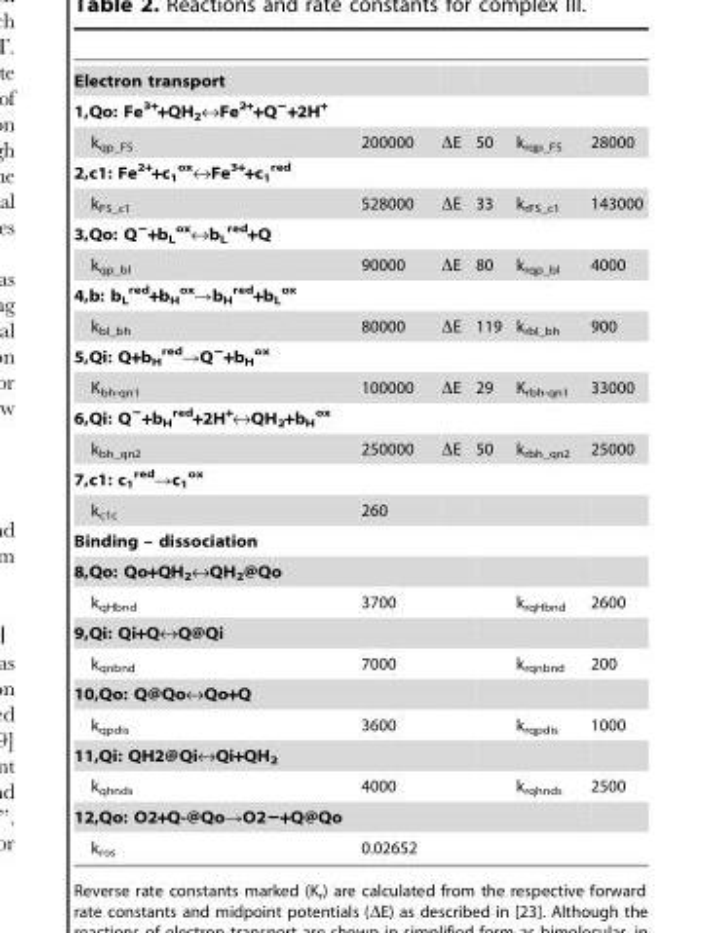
<table><tbody><tr><td colspan="6">Electron transport</td></tr><tr><td colspan="6">1,Qo: Fe<sup>3+</sup>+QH<sub>2</sub>↔Fe<sup>2+</sup>+Q<sup>−</sup>+2H<sup>+</sup></td></tr><tr><td>k<sub>qp_FS</sub></td><td>200000</td><td>ΔE</td><td>50</td><td>k<sub>rqp_FS</sub></td><td>28000</td></tr><tr><td colspan="6">2,c1: Fe<sup>2+</sup>+c<sub>1</sub> <sup>ox</sup>↔Fe<sup>3+</sup>+c<sub>1</sub> <sup>red</sup></td></tr><tr><td>k<sub>FS_c1</sub></td><td>528000</td><td>ΔE</td><td>33</td><td>k<sub>rFS_c1</sub></td><td>143000</td></tr><tr><td colspan="6">3,Qo: Q<sup>−</sup>+b<sub>L</sub> <sup>ox</sup>↔b<sub>L</sub> <sup>red</sup>+Q</td></tr><tr><td>k<sub>qp_bl</sub></td><td>90000</td><td>ΔE</td><td>80</td><td>k<sub>rqp_bl</sub></td><td>4000</td></tr><tr><td colspan="6">4,b: b<sub>L</sub> <sup>red</sup>+b<sub>H</sub> <sup>ox</sup>→b<sub>H</sub> <sup>red</sup>+b<sub>L</sub> <sup>ox</sup></td></tr><tr><td>k<sub>bl_bh</sub></td><td>80000</td><td>ΔE</td><td>119</td><td>k<sub>rbl_bh</sub></td><td>900</td></tr><tr><td colspan="6">5,Qi: Q+b<sub>H</sub> <sup>red</sup>→Q<sup>−</sup>+b<sub>H</sub> <sup>ox</sup></td></tr><tr><td>K<sub>bh-qn1</sub></td><td>100000</td><td>ΔE</td><td>29</td><td>K<sub>rbh-qn1</sub></td><td>33000</td></tr><tr><td colspan="6">6,Qi: Q<sup>−</sup>+b<sub>H</sub> <sup>red</sup>+2H<sup>+</sup>↔QH<sub>2</sub>+b<sub>H</sub> <sup>ox</sup></td></tr><tr><td>k<sub>bh_qn2</sub></td><td>250000</td><td>ΔE</td><td>50</td><td>k<sub>rbh_qn2</sub></td><td>25000</td></tr><tr><td colspan="6">7,c1: c<sub>1</sub> <sup>red</sup>→c<sub>1</sub> <sup>ox</sup></td></tr><tr><td>k<sub>c1c</sub></td><td>260</td><td></td><td></td><td></td><td></td></tr><tr><td colspan="6">Binding – dissociation</td></tr><tr><td colspan="6">8,Qo: Qo+QH<sub>2</sub>↔QH<sub>2</sub>@Qo</td></tr><tr><td>k<sub>qHbnd</sub></td><td>3700</td><td></td><td></td><td>k<sub>rqHbnd</sub></td><td>2600</td></tr><tr><td colspan="6">9,Qi: Qi+Q↔Q@Qi</td></tr><tr><td>k<sub>qnbnd</sub></td><td>7000</td><td></td><td></td><td>k<sub>rqnbnd</sub></td><td>200</td></tr><tr><td colspan="6">10,Qo: Q@Qo↔Qo+Q</td></tr><tr><td>k<sub>qpdis</sub></td><td>3600</td><td></td><td></td><td>k<sub>rqpdis</sub></td><td>1000</td></tr><tr><td colspan="6">11,Qi: QH2@Qi↔Qi+QH<sub>2</sub></td></tr><tr><td>k<sub>qhnds</sub></td><td>4000</td><td></td><td></td><td>k<sub>rqhnds</sub></td><td>2500</td></tr><tr><td colspan="6">12,Qo: O2+Q-@Qo→O2−+Q@Qo</td></tr><tr><td>k<sub>ros</sub></td><td>0.02652</td><td></td><td></td><td></td><td></td></tr></tbody></table>